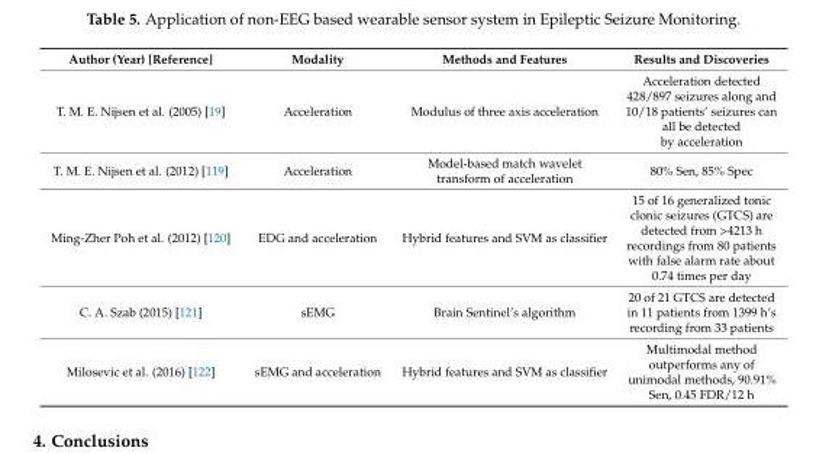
<table><thead><tr><td>Author (Year) [Reference]</td><td>Modality</td><td>Methods and Features</td><td>Results and Discoveries</td></tr></thead><tbody><tr><td>T. M. E. Nijsen et al. (2005) [19]</td><td>Acceleration</td><td>Modulus of three axis acceleration</td><td>Acceleration detected 428/897 seizures along and 10/18 patients’ seizures can all be detected by acceleration</td></tr><tr><td>T. M. E. Nijsen et al. (2012) [119]</td><td>Acceleration</td><td>Model-based match wavelet transform of acceleration</td><td>80% Sen, 85% Spec</td></tr><tr><td>Ming-Zher Poh et al. (2012) [120]</td><td>EDG and acceleration</td><td>Hybrid features and SVM as classifier</td><td>15 of 16 generalized tonic clonic seizures (GTCS) are detected from &gt;4213 h recordings from 80 patients with false alarm rate about 0.74 times per day</td></tr><tr><td>C. A. Szab (2015) [121]</td><td>sEMG</td><td>Brain Sentinel’s algorithm</td><td>20 of 21 GTCS are detected in 11 patients from 1399 h’s recording from 33 patients</td></tr><tr><td>Milosevic et al. (2016) [122]</td><td>sEMG and acceleration</td><td>Hybrid features and SVM as classifier</td><td>Multimodal method outperforms any of unimodal methods, 90.91% Sen, 0.45 FDR/12 h</td></tr></tbody></table>